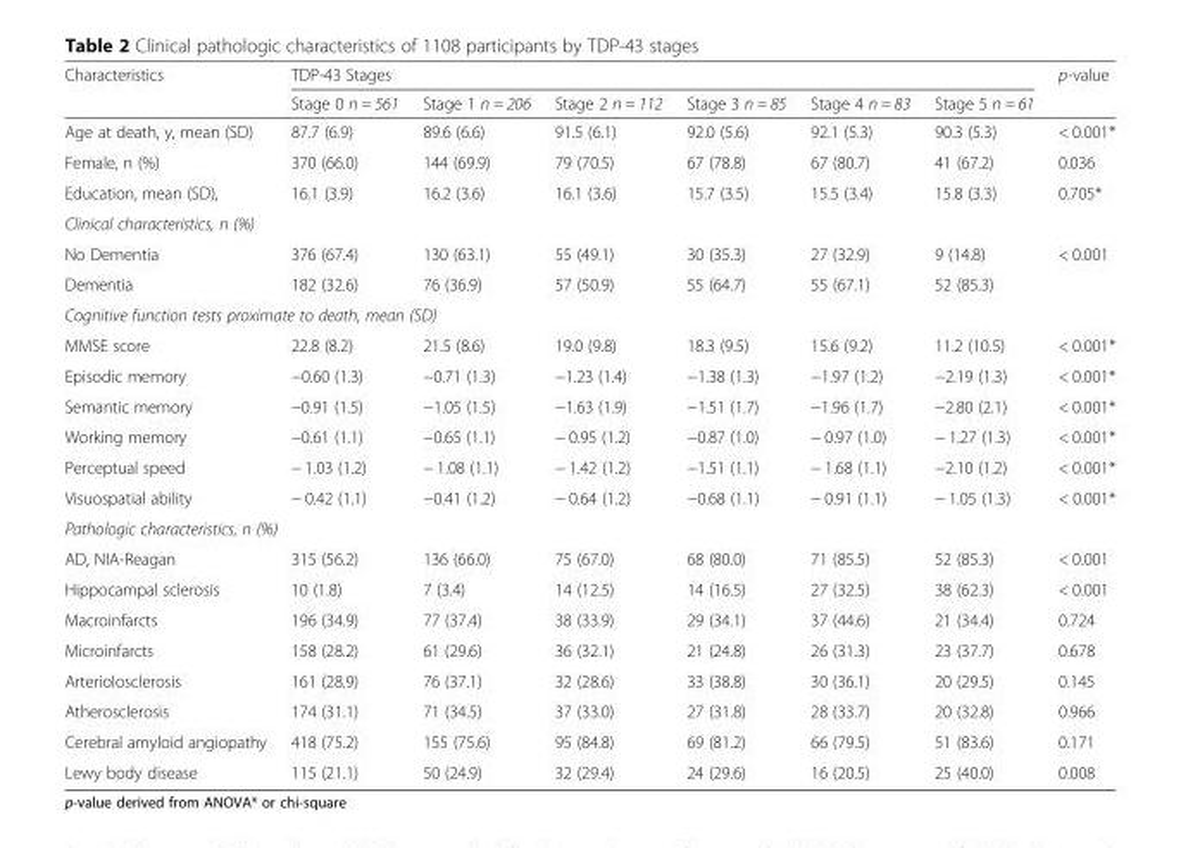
<table><thead><tr><td rowspan="2">Characteristics</td><td colspan="6">TDP-43 Stages</td><td rowspan="2">p-value</td></tr><tr><td>Stage 0 n = 561</td><td>Stage 1 n = 206</td><td>Stage 2 n = 112</td><td>Stage 3 n = 85</td><td>Stage 4 n = 83</td><td>Stage 5 n = 61</td></tr></thead><tbody><tr><td>Age at death, y, mean (SD)</td><td>87.7 (6.9)</td><td>89.6 (6.6)</td><td>91.5 (6.1)</td><td>92.0 (5.6)</td><td>92.1 (5.3)</td><td>90.3 (5.3)</td><td>&lt; 0.001*</td></tr><tr><td>Female, n (%)</td><td>370 (66.0)</td><td>144 (69.9)</td><td>79 (70.5)</td><td>67 (78.8)</td><td>67 (80.7)</td><td>41 (67.2)</td><td>0.036</td></tr><tr><td>Education, mean (SD),</td><td>16.1 (3.9)</td><td>16.2 (3.6)</td><td>16.1 (3.6)</td><td>15.7 (3.5)</td><td>15.5 (3.4)</td><td>15.8 (3.3)</td><td>0.705*</td></tr><tr><td colspan="8">Clinical characteristics, n (%)</td></tr><tr><td>No Dementia</td><td>376 (67.4)</td><td>130 (63.1)</td><td>55 (49.1)</td><td>30 (35.3)</td><td>27 (32.9)</td><td>9 (14.8)</td><td rowspan="2">&lt; 0.001</td></tr><tr><td>Dementia</td><td>182 (32.6)</td><td>76 (36.9)</td><td>57 (50.9)</td><td>55 (64.7)</td><td>55 (67.1)</td><td>52 (85.3)</td></tr><tr><td colspan="8">Cognitive function tests proximate to death, mean (SD)</td></tr><tr><td>MMSE score</td><td>22.8 (8.2)</td><td>21.5 (8.6)</td><td>19.0 (9.8)</td><td>18.3 (9.5)</td><td>15.6 (9.2)</td><td>11.2 (10.5)</td><td>&lt; 0.001*</td></tr><tr><td>Episodic memory</td><td>−0.60 (1.3)</td><td>−0.71 (1.3)</td><td>−1.23 (1.4)</td><td>−1.38 (1.3)</td><td>−1.97 (1.2)</td><td>−2.19 (1.3)</td><td>&lt; 0.001*</td></tr><tr><td>Semantic memory</td><td>−0.91 (1.5)</td><td>−1.05 (1.5)</td><td>−1.63 (1.9)</td><td>−1.51 (1.7)</td><td>−1.96 (1.7)</td><td>−2.80 (2.1)</td><td>&lt; 0.001*</td></tr><tr><td>Working memory</td><td>−0.61 (1.1)</td><td>−0.65 (1.1)</td><td>− 0.95 (1.2)</td><td>−0.87 (1.0)</td><td>− 0.97 (1.0)</td><td>− 1.27 (1.3)</td><td>&lt; 0.001*</td></tr><tr><td>Perceptual speed</td><td>− 1.03 (1.2)</td><td>− 1.08 (1.1)</td><td>− 1.42 (1.2)</td><td>−1.51 (1.1)</td><td>− 1.68 (1.1)</td><td>−2.10 (1.2)</td><td>&lt; 0.001*</td></tr><tr><td>Visuospatial ability</td><td>− 0.42 (1.1)</td><td>−0.41 (1.2)</td><td>− 0.64 (1.2)</td><td>−0.68 (1.1)</td><td>− 0.91 (1.1)</td><td>− 1.05 (1.3)</td><td>&lt; 0.001*</td></tr><tr><td colspan="8">Pathologic characteristics, n (%)</td></tr><tr><td>AD, NIA-Reagan</td><td>315 (56.2)</td><td>136 (66.0)</td><td>75 (67.0)</td><td>68 (80.0)</td><td>71 (85.5)</td><td>52 (85.3)</td><td>&lt; 0.001</td></tr><tr><td>Hippocampal sclerosis</td><td>10 (1.8)</td><td>7 (3.4)</td><td>14 (12.5)</td><td>14 (16.5)</td><td>27 (32.5)</td><td>38 (62.3)</td><td>&lt; 0.001</td></tr><tr><td>Macroinfarcts</td><td>196 (34.9)</td><td>77 (37.4)</td><td>38 (33.9)</td><td>29 (34.1)</td><td>37 (44.6)</td><td>21 (34.4)</td><td>0.724</td></tr><tr><td>Microinfarcts</td><td>158 (28.2)</td><td>61 (29.6)</td><td>36 (32.1)</td><td>21 (24.8)</td><td>26 (31.3)</td><td>23 (37.7)</td><td>0.678</td></tr><tr><td>Arteriolosclerosis</td><td>161 (28.9)</td><td>76 (37.1)</td><td>32 (28.6)</td><td>33 (38.8)</td><td>30 (36.1)</td><td>20 (29.5)</td><td>0.145</td></tr><tr><td>Atherosclerosis</td><td>174 (31.1)</td><td>71 (34.5)</td><td>37 (33.0)</td><td>27 (31.8)</td><td>28 (33.7)</td><td>20 (32.8)</td><td>0.966</td></tr><tr><td>Cerebral amyloid angiopathy</td><td>418 (75.2)</td><td>155 (75.6)</td><td>95 (84.8)</td><td>69 (81.2)</td><td>66 (79.5)</td><td>51 (83.6)</td><td>0.171</td></tr><tr><td>Lewy body disease</td><td>115 (21.1)</td><td>50 (24.9)</td><td>32 (29.4)</td><td>24 (29.6)</td><td>16 (20.5)</td><td>25 (40.0)</td><td>0.008</td></tr></tbody></table>